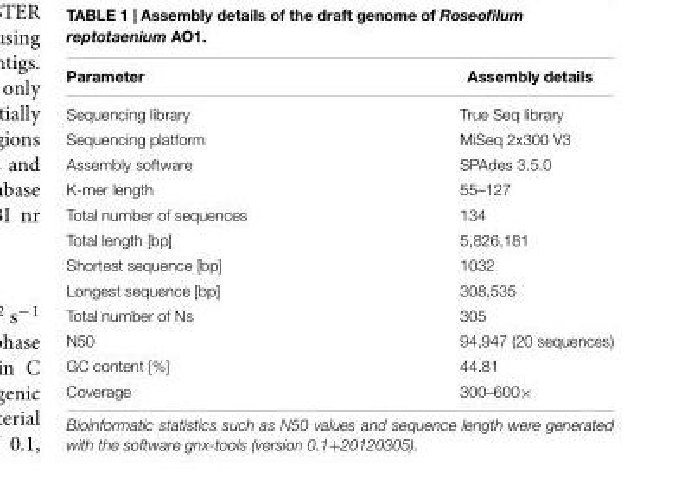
<table><thead><tr><td>Parameter</td><td>Assembly details</td></tr></thead><tbody><tr><td>Sequencing library</td><td>True Seq library</td></tr><tr><td>Sequencing platform</td><td>MiSeq 2x300 V3</td></tr><tr><td>Assembly software</td><td>SPAdes 3.5.0</td></tr><tr><td>K-mer length</td><td>55–127</td></tr><tr><td>Total number of sequences</td><td>134</td></tr><tr><td>Total length [bp]</td><td>5,826,181</td></tr><tr><td>Shortest sequence [bp]</td><td>1032</td></tr><tr><td>Longest sequence [bp]</td><td>308,535</td></tr><tr><td>Total number of Ns</td><td>305</td></tr><tr><td>N50</td><td>94,947 (20 sequences)</td></tr><tr><td>GC content [%]</td><td>44.81</td></tr><tr><td>Coverage</td><td>300–600×</td></tr></tbody></table>